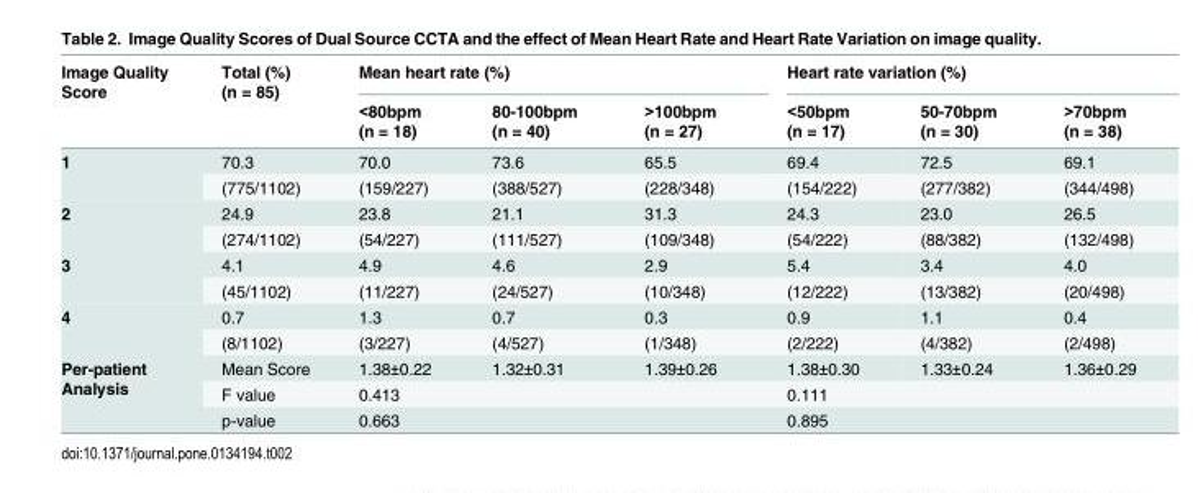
<table><thead><tr><td rowspan="2">Image Quality Score</td><td rowspan="2">Total (%) (n = 85)</td><td colspan="3">Mean heart rate (%)</td><td colspan="3">Heart rate variation (%)</td></tr><tr><td>&lt;80bpm (n = 18)</td><td>80-100bpm (n = 40)</td><td>&gt;100bpm (n = 27)</td><td>&lt;50bpm (n = 17)</td><td>50-70bpm (n = 30)</td><td>&gt;70bpm (n = 38)</td></tr></thead><tbody><tr><td rowspan="2">1</td><td>70.3</td><td>70.0</td><td>73.6</td><td>65.5</td><td>69.4</td><td>72.5</td><td>69.1</td></tr><tr><td>(775/1102)</td><td>(159/227)</td><td>(388/527)</td><td>(228/348)</td><td>(154/222)</td><td>(277/382)</td><td>(344/498)</td></tr><tr><td rowspan="2">2</td><td>24.9</td><td>23.8</td><td>21.1</td><td>31.3</td><td>24.3</td><td>23.0</td><td>26.5</td></tr><tr><td>(274/1102)</td><td>(54/227)</td><td>(111/527)</td><td>(109/348)</td><td>(54/222)</td><td>(88/382)</td><td>(132/498)</td></tr><tr><td rowspan="2">3</td><td>4.1</td><td>4.9</td><td>4.6</td><td>2.9</td><td>5.4</td><td>3.4</td><td>4.0</td></tr><tr><td>(45/1102)</td><td>(11/227)</td><td>(24/527)</td><td>(10/348)</td><td>(12/222)</td><td>(13/382)</td><td>(20/498)</td></tr><tr><td rowspan="2">4</td><td>0.7</td><td>1.3</td><td>0.7</td><td>0.3</td><td>0.9</td><td>1.1</td><td>0.4</td></tr><tr><td>(8/1102)</td><td>(3/227)</td><td>(4/527)</td><td>(1/348)</td><td>(2/222)</td><td>(4/382)</td><td>(2/498)</td></tr><tr><td rowspan="3">Per-patient Analysis</td><td>Mean Score</td><td>1.38±0.22</td><td>1.32±0.31</td><td>1.39±0.26</td><td>1.38±0.30</td><td>1.33±0.24</td><td>1.36±0.29</td></tr><tr><td>F value</td><td colspan="3">0.413</td><td colspan="3">0.111</td></tr><tr><td>p-value</td><td colspan="3">0.663</td><td colspan="3">0.895</td></tr></tbody></table>